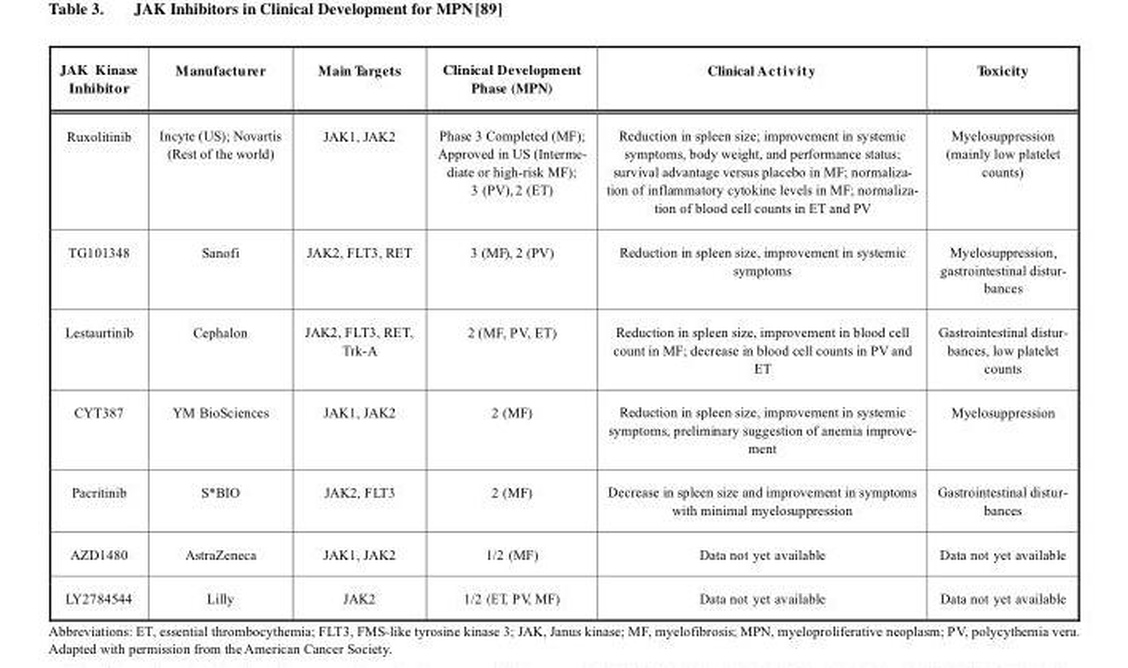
<table><thead><tr><td>JAK Kinase Inhibitor</td><td>Manufacturer</td><td>Main Targets</td><td>Clinical Development Phase (MPN)</td><td>Clinical Activity</td><td>Toxicity</td></tr></thead><tbody><tr><td>Ruxolitinib</td><td>Incyte (US); Novartis (Rest of the world)</td><td>JAK1, JAK2</td><td>Phase 3 Completed (MF); Approved in US (Interme- diate or high-risk MF); 3 (PV), 2 (ET)</td><td>Reduction in spleen size; improvement in systemic symptoms, body weight, and performance status; survival advantage versus placebo in MF; normaliza- tion of inflammatory cytokine levels in MF; normaliza- tion of blood cell counts in ET and PV</td><td>Myelosuppression (mainly low platelet counts)</td></tr><tr><td>TG101348</td><td>Sanofi</td><td>JAK2, FLT3, RET</td><td>3 (MF) , 2 (PV)</td><td>Reduction in spleen size, improvement in systemic symptoms</td><td>Myelosuppression, gastrointestinal distur- bances</td></tr><tr><td>Lestaurtinib</td><td>Cephalon</td><td>JAK2, FLT3, RET, Trk-A</td><td>2 (MF, PV, ET)</td><td>Reduction in spleen size, improvement in blood cell count in MF; decrease in blood cell counts in PV and ET</td><td>Gastrointestinal distur- bances, low platelet counts</td></tr><tr><td>CYT387</td><td>YM BioSciences</td><td>JAK1, JAK2</td><td>2 (MF)</td><td>Reduction in spleen size, improvement in systemic symptoms, preliminary suggestion of anemia improve- ment</td><td>Myelosuppression</td></tr><tr><td>Pacritinib</td><td>S*BIO</td><td>JAK2, FLT3</td><td>2 (MF)</td><td>Decrease in spleen size and improvement in symptoms with minimal myelosuppression</td><td>Gastrointestinal distur- bances</td></tr><tr><td>AZD1480</td><td>AstraZeneca</td><td>JAK1, JAK2</td><td>1/2 (MF)</td><td>Data not yet available</td><td>Data not yet available</td></tr><tr><td>LY2784544</td><td>Lilly</td><td>JAK2</td><td>1/2 (ET, PV, MF)</td><td>Data not yet available</td><td>Data not yet available</td></tr></tbody></table>